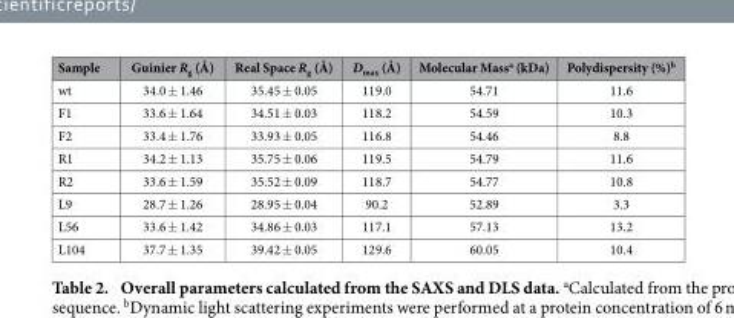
<table><thead><tr><td>Sample</td><td>Guinier R<sub>g</sub> (Å)</td><td>Real Space R<sub>g</sub> (Å)</td><td>D<sub>max</sub> (Å)</td><td>Molecular Mass<sup>a</sup> (kDa)</td><td>Polydispersity (%)<sup>b</sup></td></tr></thead><tbody><tr><td>wt</td><td>34.0 ± 1.46</td><td>35.45 ± 0.05</td><td>119.0</td><td>54.71</td><td>11.6</td></tr><tr><td>F1</td><td>33.6 ± 1.64</td><td>34.51 ± 0.03</td><td>118.2</td><td>54.59</td><td>10.3</td></tr><tr><td>F2</td><td>33.4 ± 1.76</td><td>33.93 ± 0.05</td><td>116.8</td><td>54.46</td><td>8.8</td></tr><tr><td>R1</td><td>34.2 ± 1.13</td><td>35.75 ± 0.06</td><td>119.5</td><td>54.79</td><td>11.6</td></tr><tr><td>R2</td><td>33.6 ± 1.59</td><td>35.52 ± 0.09</td><td>118.7</td><td>54.77</td><td>10.8</td></tr><tr><td>L9</td><td>28.7 ± 1.26</td><td>28.95 ± 0.04</td><td>90.2</td><td>52.89</td><td>3.3</td></tr><tr><td>L56</td><td>33.6 ± 1.42</td><td>34.86 ± 0.03</td><td>117.1</td><td>57.13</td><td>13.2</td></tr><tr><td>L104</td><td>37.7 ± 1.35</td><td>39.42 ± 0.05</td><td>129.6</td><td>60.05</td><td>10.4</td></tr></tbody></table>